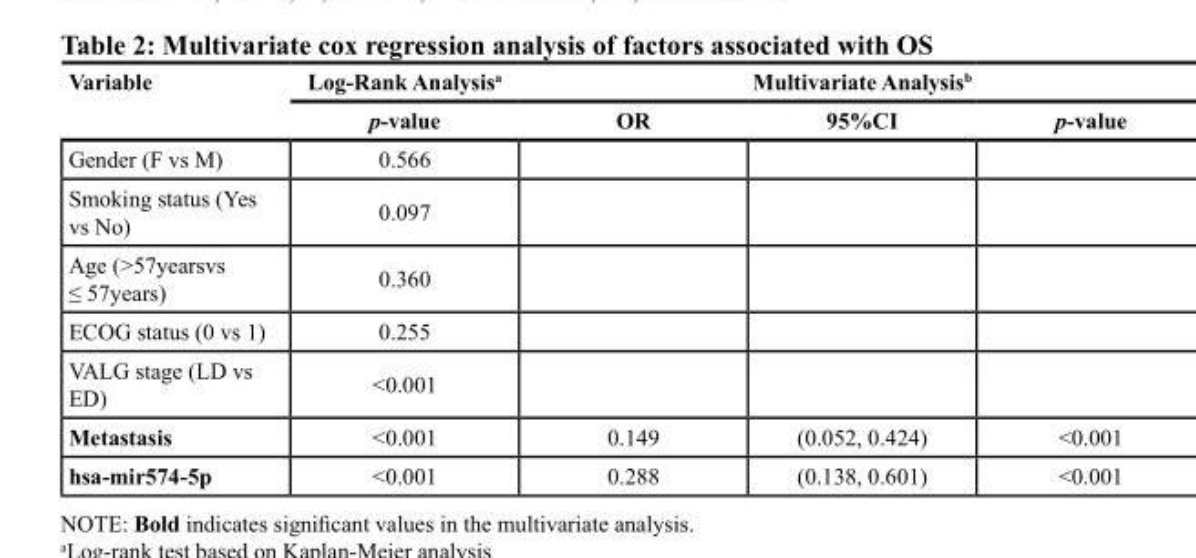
<table><thead><tr><td rowspan="2">Variable</td><td rowspan="2">Log-Rank Analysisa p-value</td><td colspan="3">Multivariate Analysis<sup>b</sup></td></tr><tr><td>OR</td><td>95%CI</td><td>p-value</td></tr></thead><tbody><tr><td>Gender (F vs M)</td><td>0.566</td><td></td><td></td><td></td></tr><tr><td>Smoking status (Yes vs No)</td><td>0.097</td><td></td><td></td><td></td></tr><tr><td>Age (&gt;57yearsvs ≤ 57years)</td><td>0.360</td><td></td><td></td><td></td></tr><tr><td>ECOG status (0 vs 1)</td><td>0.255</td><td></td><td></td><td></td></tr><tr><td>VALG stage (LD vs ED)</td><td>&lt;0.001</td><td></td><td></td><td></td></tr><tr><td>Metastasis</td><td>&lt;0.001</td><td>0.149</td><td>(0.052, 0.424)</td><td>&lt;0.001</td></tr><tr><td>hsa-mir574-5p</td><td>&lt;0.001</td><td>0.288</td><td>(0.138, 0.601)</td><td>&lt;0.001</td></tr></tbody></table>